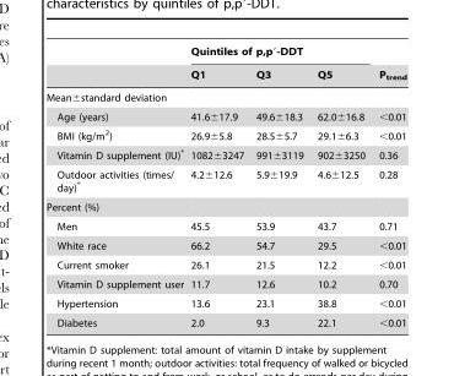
<table><thead><tr><td rowspan="2"></td><td colspan="3">Quintiles of p,p′-DDT</td><td rowspan="2">P<sub>trend</sub></td></tr><tr><td>Q1</td><td>Q3</td><td>Q5</td></tr></thead><tbody><tr><td colspan="5">Mean±standard deviation</td></tr><tr><td>Age (years)</td><td>41.6±17.9</td><td>49.6±18.3</td><td>62.0±16.8</td><td>&lt;0.01</td></tr><tr><td>BMI (kg/m<sup>2</sup>)</td><td>26.9±5.8</td><td>28.5±5.7</td><td>29.1±6.3</td><td>&lt;0.01</td></tr><tr><td>Vitamin D supplement (IU)*</td><td>1082±3247</td><td>991±3119</td><td>902±3250</td><td>0.36</td></tr><tr><td>Outdoor activities (times/ day)*</td><td>4.2±12.6</td><td>5.9±19.9</td><td>4.6±12.5</td><td>0.28</td></tr><tr><td colspan="5">Percent (%)</td></tr><tr><td>Men</td><td>45.5</td><td>53.9</td><td>43.7</td><td>0.71</td></tr><tr><td>White race</td><td>66.2</td><td>54.7</td><td>29.5</td><td>&lt;0.01</td></tr><tr><td>Current smoker</td><td>26.1</td><td>21.5</td><td>12.2</td><td>&lt;0.01</td></tr><tr><td>Vitamin D supplement user</td><td>11.7</td><td>12.6</td><td>10.2</td><td>0.70</td></tr><tr><td>Hypertension</td><td>13.6</td><td>23.1</td><td>38.8</td><td>&lt;0.01</td></tr><tr><td>Diabetes</td><td>2.0</td><td>9.3</td><td>22.1</td><td>&lt;0.01</td></tr></tbody></table>